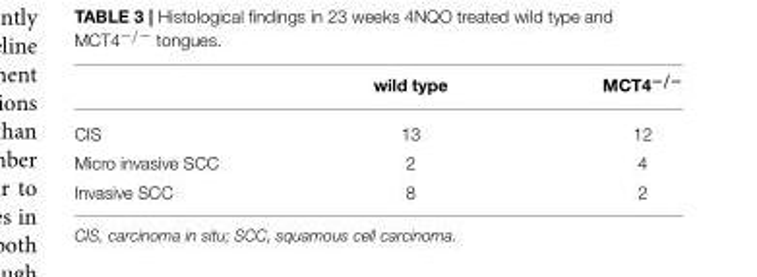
<table><thead><tr><td></td><td>wild type</td><td>MCT4<sup>−/−</sup></td></tr></thead><tbody><tr><td>CIS</td><td>13</td><td>12</td></tr><tr><td>Micro invasive SCC</td><td>2</td><td>4</td></tr><tr><td>Invasive SCC</td><td>8</td><td>2</td></tr></tbody></table>